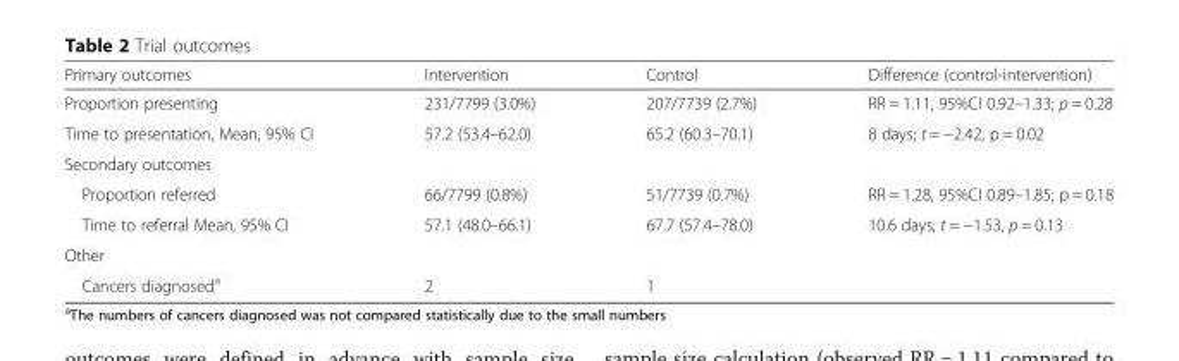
<table><thead><tr><td>Primary outcomes</td><td>Intervention</td><td>Control</td><td>Difference (control-intervention)</td></tr></thead><tbody><tr><td>Proportion presenting</td><td>231/7799 (3.0%)</td><td>207/7739 (2.7%)</td><td>RR = 1.11, 95%CI 0.92–1.33; p = 0.28</td></tr><tr><td>Time to presentation, Mean, 95% CI</td><td>57.2 (53.4–62.0)</td><td>65.2 (60.3–70.1)</td><td>8 days; t = −2.42, p = 0.02</td></tr><tr><td colspan="4">Secondary outcomes</td></tr><tr><td>Proportion referred</td><td>66/7799 (0.8%)</td><td>51/7739 (0.7%)</td><td>RR = 1.28, 95%CI 0.89–1.85; p = 0.18</td></tr><tr><td>Time to referral Mean, 95% CI</td><td>57.1 (48.0–66.1)</td><td>67.7 (57.4–78.0)</td><td>10.6 days; t = −1.53, p = 0.13</td></tr><tr><td colspan="4">Other</td></tr><tr><td>Cancers diagnosed<sup>a</sup></td><td>2</td><td>1</td><td></td></tr></tbody></table>